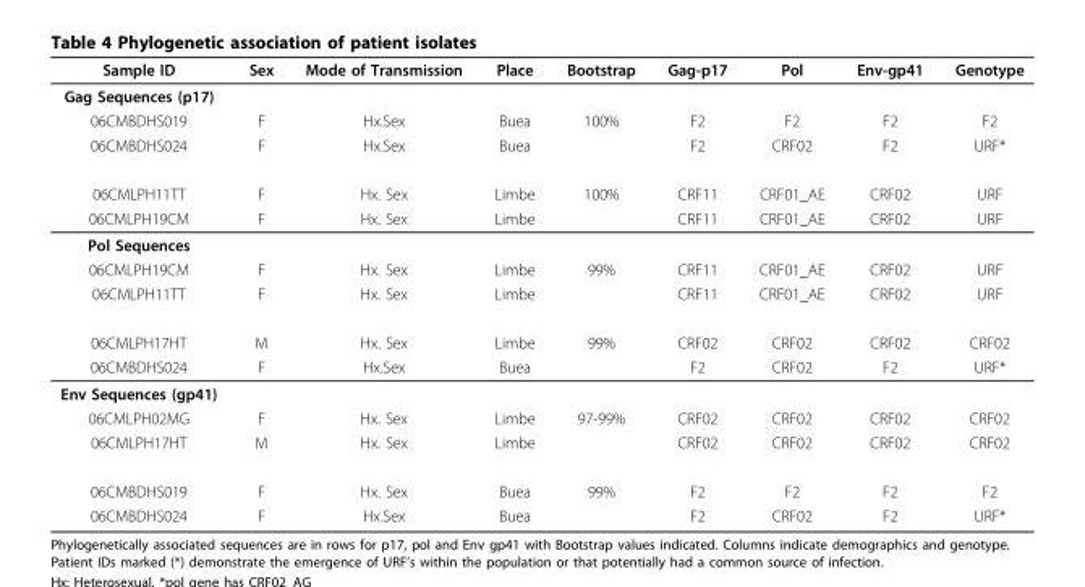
<table><thead><tr><td>Sample ID</td><td>Sex</td><td>Mode of Transmission</td><td>Place</td><td>Bootstrap</td><td>Gag-p17</td><td>Pol</td><td>Env-gp41</td><td>Genotype</td></tr></thead><tbody><tr><td colspan="9">Gag Sequences (p17)</td></tr><tr><td>06CMBDHS019</td><td>F</td><td>Hx.Sex</td><td>Buea</td><td>100%</td><td>F2</td><td>F2</td><td>F2</td><td>F2</td></tr><tr><td>06CMBDHS024</td><td>F</td><td>Hx.Sex</td><td>Buea</td><td></td><td>F2</td><td>CRF02</td><td>F2</td><td>URF*</td></tr><tr><td>06CMLPH11TT</td><td>F</td><td>Hx. Sex</td><td>Limbe</td><td>100%</td><td>CRF11</td><td>CRF01_AE</td><td>CRF02</td><td>URF</td></tr><tr><td>06CMLPH19CM</td><td>F</td><td>Hx. Sex</td><td>Limbe</td><td></td><td>CRF11</td><td>CRF01_AE</td><td>CRF02</td><td>URF</td></tr><tr><td colspan="9">Pol Sequences</td></tr><tr><td>06CMLPH19CM</td><td>F</td><td>Hx. Sex</td><td>Limbe</td><td>99%</td><td>CRF11</td><td>CRF01_AE</td><td>CRF02</td><td>URF</td></tr><tr><td>06CMLPH11TT</td><td>F</td><td>Hx. Sex</td><td>Limbe</td><td></td><td>CRF11</td><td>CRF01_AE</td><td>CRF02</td><td>URF</td></tr><tr><td>06CMLPH17HT</td><td>M</td><td>Hx. Sex</td><td>Limbe</td><td>99%</td><td>CRF02</td><td>CRF02</td><td>CRF02</td><td>CRF02</td></tr><tr><td>06CMBDHS024</td><td>F</td><td>Hx.Sex</td><td>Buea</td><td></td><td>F2</td><td>CRF02</td><td>F2</td><td>URF*</td></tr><tr><td colspan="9">Env Sequences (gp41)</td></tr><tr><td>06CMLPH02MG</td><td>F</td><td>Hx. Sex</td><td>Limbe</td><td>97-99%</td><td>CRF02</td><td>CRF02</td><td>CRF02</td><td>CRF02</td></tr><tr><td>06CMLPH17HT</td><td>M</td><td>Hx. Sex</td><td>Limbe</td><td></td><td>CRF02</td><td>CRF02</td><td>CRF02</td><td>CRF02</td></tr><tr><td>06CMBDHS019</td><td>F</td><td>Hx. Sex</td><td>Buea</td><td>99%</td><td>F2</td><td>F2</td><td>F2</td><td>F2</td></tr><tr><td>06CMBDHS024</td><td>F</td><td>Hx.Sex</td><td>Buea</td><td></td><td>F2</td><td>CRF02</td><td>F2</td><td>URF*</td></tr></tbody></table>